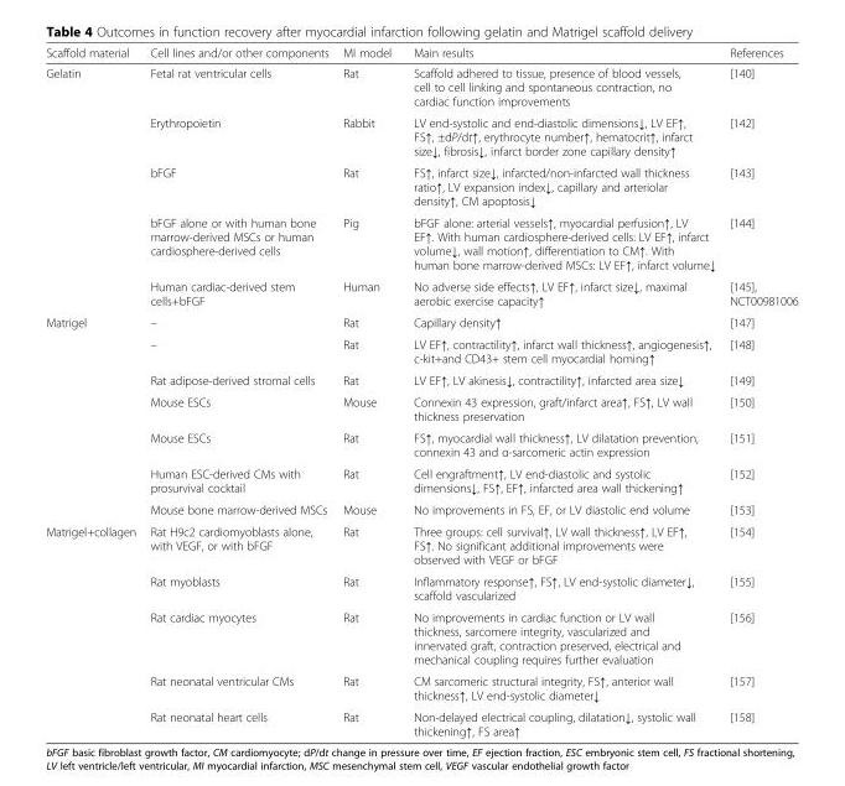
<table><thead><tr><td>Scaffold material</td><td>Cell lines and/or other components</td><td>MI model</td><td>Main results</td><td>References</td></tr></thead><tbody><tr><td rowspan="5">Gelatin</td><td>Fetal rat ventricular cells</td><td>Rat</td><td>Scaffold adhered to tissue, presence of blood vessels, cell to cell linking and spontaneous contraction, no cardiac function improvements</td><td>[140]</td></tr><tr><td>Erythropoietin</td><td>Rabbit</td><td>LV end-systolic and end-diastolic dimensions↓, LV EF↑, FS↑, ±dP/dt↑, erythrocyte number↑, hematocrit↑, infarct size↓, fibrosis↓, infarct border zone capillary density↑</td><td>[142]</td></tr><tr><td>bFGF</td><td>Rat</td><td>FS↑, infarct size↓, infarcted/non-infarcted wall thickness ratio↑, LV expansion index↓, capillary and arteriolar density↑, CM apoptosis↓</td><td>[143]</td></tr><tr><td>bFGF alone or with human bone marrow-derived MSCs or human cardiosphere-derived cells</td><td>Pig</td><td>bFGF alone: arterial vessels↑, myocardial perfusion↑, LV EF↑. With human cardiosphere-derived cells: LV EF↑, infarct volume↓, wall motion↑, differentiation to CM↑. With human bone marrow-derived MSCs: LV EF↑, infarct volume↓</td><td>[144]</td></tr><tr><td>Human cardiac-derived stem cells+bFGF</td><td>Human</td><td>No adverse side effects↑, LV EF↑, infarct size↓, maximal aerobic exercise capacity↑</td><td>[145], NCT00981006</td></tr><tr><td rowspan="7">Matrigel</td><td>–</td><td>Rat</td><td>Capillary density↑</td><td>[147]</td></tr><tr><td>–</td><td>Rat</td><td>LV EF↑, contractility↑, infarct wall thickness↑, angiogenesis↑, c-kit+and CD43+ stem cell myocardial homing↑</td><td>[148]</td></tr><tr><td>Rat adipose-derived stromal cells</td><td>Rat</td><td>LV EF↑, LV akinesis↓, contractility↑, infarcted area size↓</td><td>[149]</td></tr><tr><td>Mouse ESCs</td><td>Mouse</td><td>Connexin 43 expression, graft/infarct area↑, FS↑, LV wall thickness preservation</td><td>[150]</td></tr><tr><td>Mouse ESCs</td><td>Rat</td><td>FS↑, myocardial wall thickness↑, LV dilatation prevention, connexin 43 and α-sarcomeric actin expression</td><td>[151]</td></tr><tr><td>Human ESC-derived CMs with prosurvival cocktail</td><td>Rat</td><td>Cell engraftment↑, LV end-diastolic and systolic dimensions↓, FS↑, EF↑, infarcted area wall thickening↑</td><td>[152]</td></tr><tr><td>Mouse bone marrow-derived MSCs</td><td>Mouse</td><td>No improvements in FS, EF, or LV diastolic end volume</td><td>[153]</td></tr><tr><td rowspan="5">Matrigel+collagen</td><td>Rat H9c2 cardiomyoblasts alone, with VEGF, or with bFGF</td><td>Rat</td><td>Three groups: cell survival↑, LV wall thickness↑, LV EF↑, FS↑. No significant additional improvements were observed with VEGF or bFGF</td><td>[154]</td></tr><tr><td>Rat myoblasts</td><td>Rat</td><td>Inflammatory response↑, FS↑, LV end-systolic diameter↓, scaffold vascularized</td><td>[155]</td></tr><tr><td>Rat cardiac myocytes</td><td>Rat</td><td>No improvements in cardiac function or LV wall thickness, sarcomere integrity, vascularized and innervated graft, contraction preserved, electrical and mechanical coupling requires further evaluation</td><td>[156]</td></tr><tr><td>Rat neonatal ventricular CMs</td><td>Rat</td><td>CM sarcomeric structural integrity, FS↑, anterior wall thickness↑, LV end-systolic diameter↓</td><td>[157]</td></tr><tr><td>Rat neonatal heart cells</td><td>Rat</td><td>Non-delayed electrical coupling, dilatation↓, systolic wall thickening↑, FS area↑</td><td>[158]</td></tr></tbody></table>